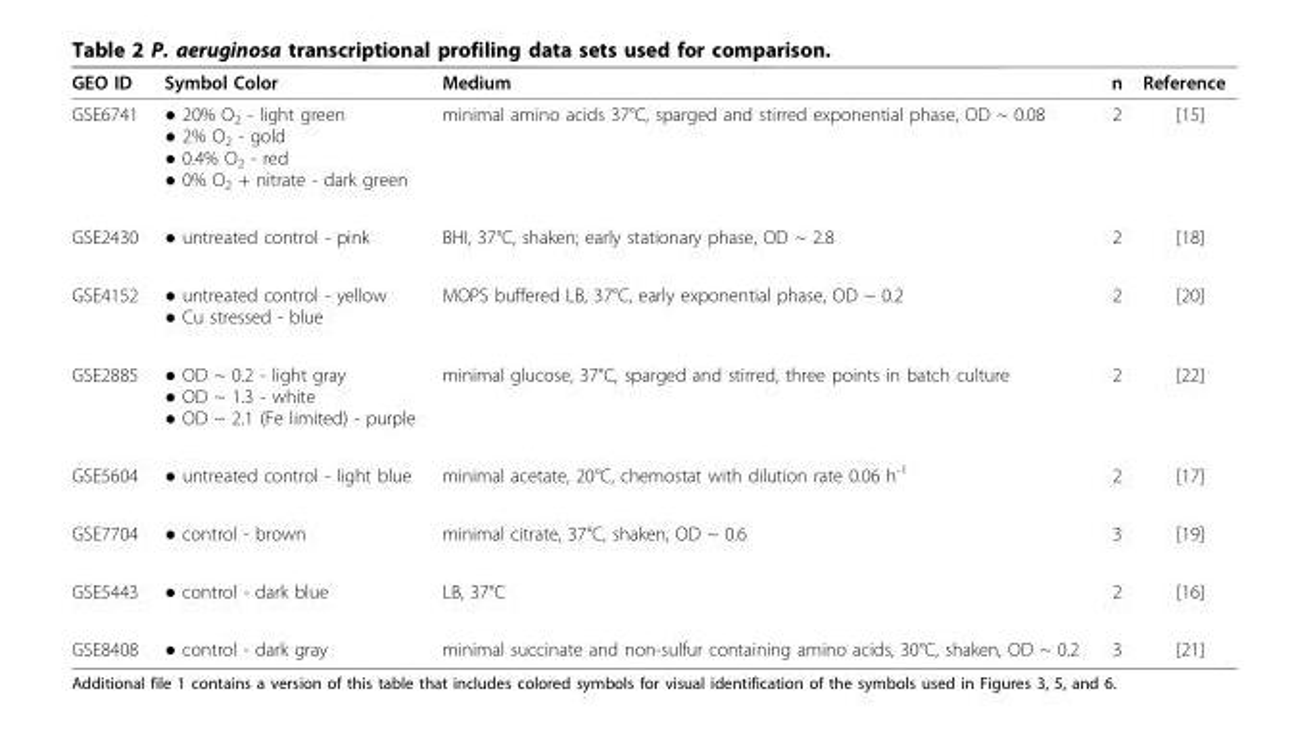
<table><thead><tr><td>GEO ID</td><td>Symbol Color</td><td>Medium</td><td>n</td><td>Reference</td></tr></thead><tbody><tr><td>GSE6741</td><td>● 20% O<sub>2</sub> - light green ● 2% O<sub>2</sub> - gold ● 0.4% O<sub>2</sub> - red ● 0% O<sub>2</sub> + nitrate - dark green</td><td>minimal amino acids 37°C, sparged and stirred exponential phase, OD ~ 0.08</td><td>2</td><td>[15]</td></tr><tr><td>GSE2430</td><td>● untreated control - pink</td><td>BHI, 37°C, shaken; early stationary phase, OD ~ 2.8</td><td>2</td><td>[18]</td></tr><tr><td>GSE4152</td><td>● untreated control - yellow ● Cu stressed - blue</td><td>MOPS buffered LB, 37°C, early exponential phase, OD ~ 0.2</td><td>2</td><td>[20]</td></tr><tr><td>GSE2885</td><td>● OD ~ 0.2 - light gray ● OD ~ 1.3 - white ● OD ~ 2.1 (Fe limited) - purple</td><td>minimal glucose, 37°C, sparged and stirred, three points in batch culture</td><td>2</td><td>[22]</td></tr><tr><td>GSE5604</td><td>● untreated control - light blue</td><td>minimal acetate, 20°C, chemostat with dilution rate 0.06 h<sup>-1</sup></td><td>2</td><td>[17]</td></tr><tr><td>GSE7704</td><td>● control - brown</td><td>minimal citrate, 37°C, shaken, OD ~ 0.6</td><td>3</td><td>[19]</td></tr><tr><td>GSE5443</td><td>● control - dark blue</td><td>LB, 37°C</td><td>2</td><td>[16]</td></tr><tr><td>GSE8408</td><td>● control - dark gray</td><td>minimal succinate and non-sulfur containing amino acids, 30°C, shaken, OD ~ 0.2</td><td>3</td><td>[21]</td></tr></tbody></table>